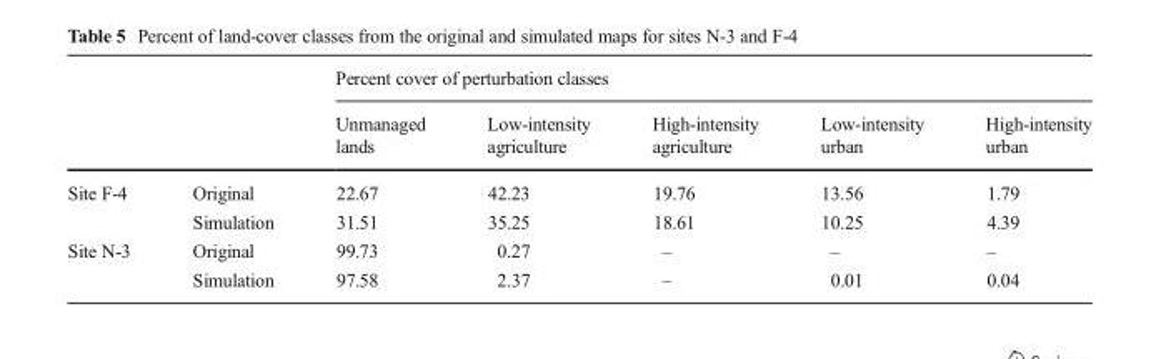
<table><thead><tr><td rowspan="2"></td><td rowspan="2"></td><td colspan="5">Percent cover of perturbation classes</td></tr><tr><td>Unmanaged lands</td><td>Low-intensity agriculture</td><td>High-intensity agriculture</td><td>Low-intensity urban</td><td>High-intensity urban</td></tr></thead><tbody><tr><td rowspan="2">Site F-4</td><td>Original</td><td>22.67</td><td>42.23</td><td>19.76</td><td>13.56</td><td>1.79</td></tr><tr><td>Simulation</td><td>31.51</td><td>35.25</td><td>18.61</td><td>10.25</td><td>4.39</td></tr><tr><td rowspan="2">Site N-3</td><td>Original</td><td>99.73</td><td>0.27</td><td>–</td><td>–</td><td>–</td></tr><tr><td>Simulation</td><td>97.58</td><td>2.37</td><td>–</td><td>0.01</td><td>0.04</td></tr></tbody></table>